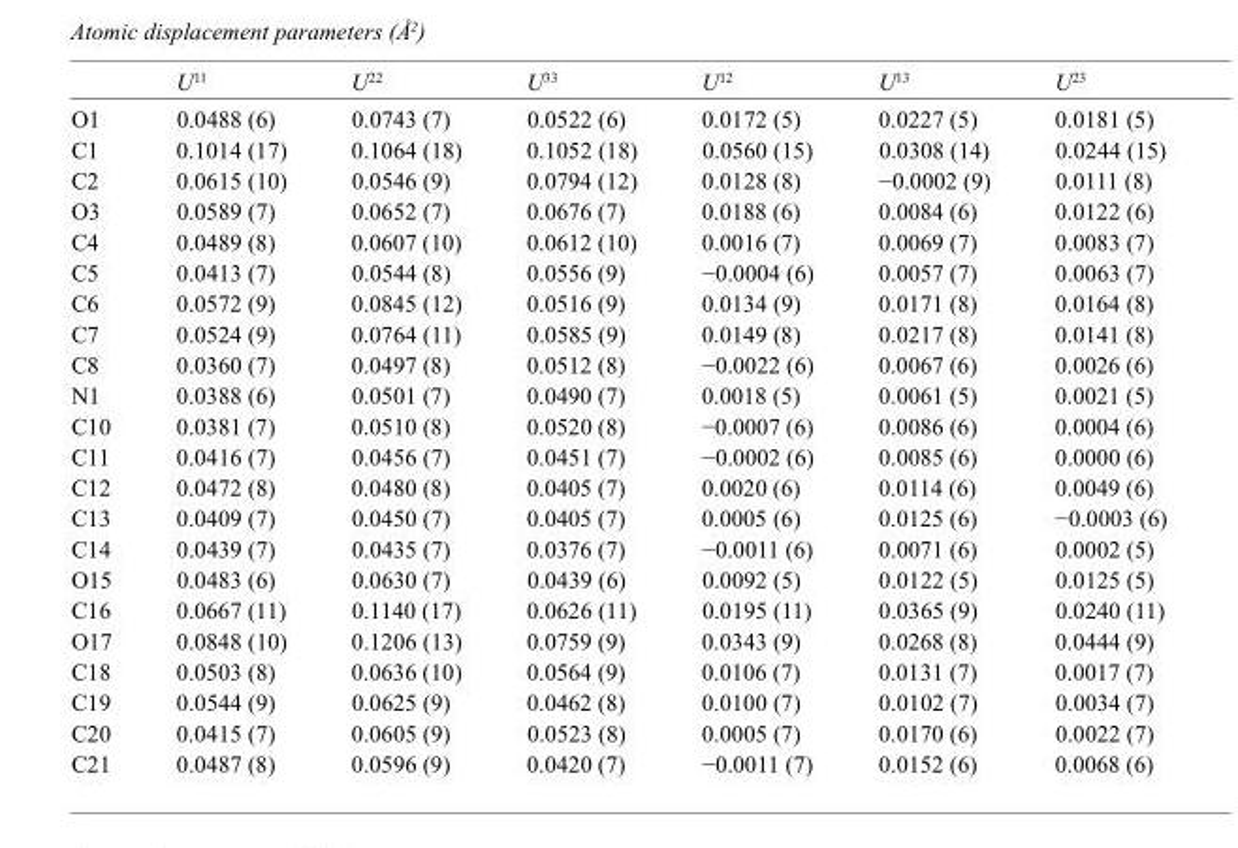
<table><thead><tr><td></td><td>U<sup>11</sup></td><td>U<sup>22</sup></td><td>U<sup>33</sup></td><td>U<sup>12</sup></td><td>U<sup>13</sup></td><td>U<sup>23</sup></td></tr></thead><tbody><tr><td>O1</td><td>0.0488 (6)</td><td>0.0743 (7)</td><td>0.0522 (6)</td><td>0.0172 (5)</td><td>0.0227 (5)</td><td>0.0181 (5)</td></tr><tr><td>C1</td><td>0.1014 (17)</td><td>0.1064 (18)</td><td>0.1052 (18)</td><td>0.0560 (15)</td><td>0.0308 (14)</td><td>0.0244 (15)</td></tr><tr><td>C2</td><td>0.0615 (10)</td><td>0.0546 (9)</td><td>0.0794 (12)</td><td>0.0128 (8)</td><td>−0.0002 (9)</td><td>0.0111 (8)</td></tr><tr><td>O3</td><td>0.0589 (7)</td><td>0.0652 (7)</td><td>0.0676 (7)</td><td>0.0188 (6)</td><td>0.0084 (6)</td><td>0.0122 (6)</td></tr><tr><td>C4</td><td>0.0489 (8)</td><td>0.0607 (10)</td><td>0.0612 (10)</td><td>0.0016 (7)</td><td>0.0069 (7)</td><td>0.0083 (7)</td></tr><tr><td>C5</td><td>0.0413 (7)</td><td>0.0544 (8)</td><td>0.0556 (9)</td><td>−0.0004 (6)</td><td>0.0057 (7)</td><td>0.0063 (7)</td></tr><tr><td>C6</td><td>0.0572 (9)</td><td>0.0845 (12)</td><td>0.0516 (9)</td><td>0.0134 (9)</td><td>0.0171 (8)</td><td>0.0164 (8)</td></tr><tr><td>C7</td><td>0.0524 (9)</td><td>0.0764 (11)</td><td>0.0585 (9)</td><td>0.0149 (8)</td><td>0.0217 (8)</td><td>0.0141 (8)</td></tr><tr><td>C8</td><td>0.0360 (7)</td><td>0.0497 (8)</td><td>0.0512 (8)</td><td>−0.0022 (6)</td><td>0.0067 (6)</td><td>0.0026 (6)</td></tr><tr><td>N1</td><td>0.0388 (6)</td><td>0.0501 (7)</td><td>0.0490 (7)</td><td>0.0018 (5)</td><td>0.0061 (5)</td><td>0.0021 (5)</td></tr><tr><td>C10</td><td>0.0381 (7)</td><td>0.0510 (8)</td><td>0.0520 (8)</td><td>−0.0007 (6)</td><td>0.0086 (6)</td><td>0.0004 (6)</td></tr><tr><td>C11</td><td>0.0416 (7)</td><td>0.0456 (7)</td><td>0.0451 (7)</td><td>−0.0002 (6)</td><td>0.0085 (6)</td><td>0.0000 (6)</td></tr><tr><td>C12</td><td>0.0472 (8)</td><td>0.0480 (8)</td><td>0.0405 (7)</td><td>0.0020 (6)</td><td>0.0114 (6)</td><td>0.0049 (6)</td></tr><tr><td>C13</td><td>0.0409 (7)</td><td>0.0450 (7)</td><td>0.0405 (7)</td><td>0.0005 (6)</td><td>0.0125 (6)</td><td>−0.0003 (6)</td></tr><tr><td>C14</td><td>0.0439 (7)</td><td>0.0435 (7)</td><td>0.0376 (7)</td><td>−0.0011 (6)</td><td>0.0071 (6)</td><td>0.0002 (5)</td></tr><tr><td>O15</td><td>0.0483 (6)</td><td>0.0630 (7)</td><td>0.0439 (6)</td><td>0.0092 (5)</td><td>0.0122 (5)</td><td>0.0125 (5)</td></tr><tr><td>C16</td><td>0.0667 (11)</td><td>0.1140 (17)</td><td>0.0626 (11)</td><td>0.0195 (11)</td><td>0.0365 (9)</td><td>0.0240 (11)</td></tr><tr><td>O17</td><td>0.0848 (10)</td><td>0.1206 (13)</td><td>0.0759 (9)</td><td>0.0343 (9)</td><td>0.0268 (8)</td><td>0.0444 (9)</td></tr><tr><td>C18</td><td>0.0503 (8)</td><td>0.0636 (10)</td><td>0.0564 (9)</td><td>0.0106 (7)</td><td>0.0131 (7)</td><td>0.0017 (7)</td></tr><tr><td>C19</td><td>0.0544 (9)</td><td>0.0625 (9)</td><td>0.0462 (8)</td><td>0.0100 (7)</td><td>0.0102 (7)</td><td>0.0034 (7)</td></tr><tr><td>C20</td><td>0.0415 (7)</td><td>0.0605 (9)</td><td>0.0523 (8)</td><td>0.0005 (7)</td><td>0.0170 (6)</td><td>0.0022 (7)</td></tr><tr><td>C21</td><td>0.0487 (8)</td><td>0.0596 (9)</td><td>0.0420 (7)</td><td>−0.0011 (7)</td><td>0.0152 (6)</td><td>0.0068 (6)</td></tr></tbody></table>